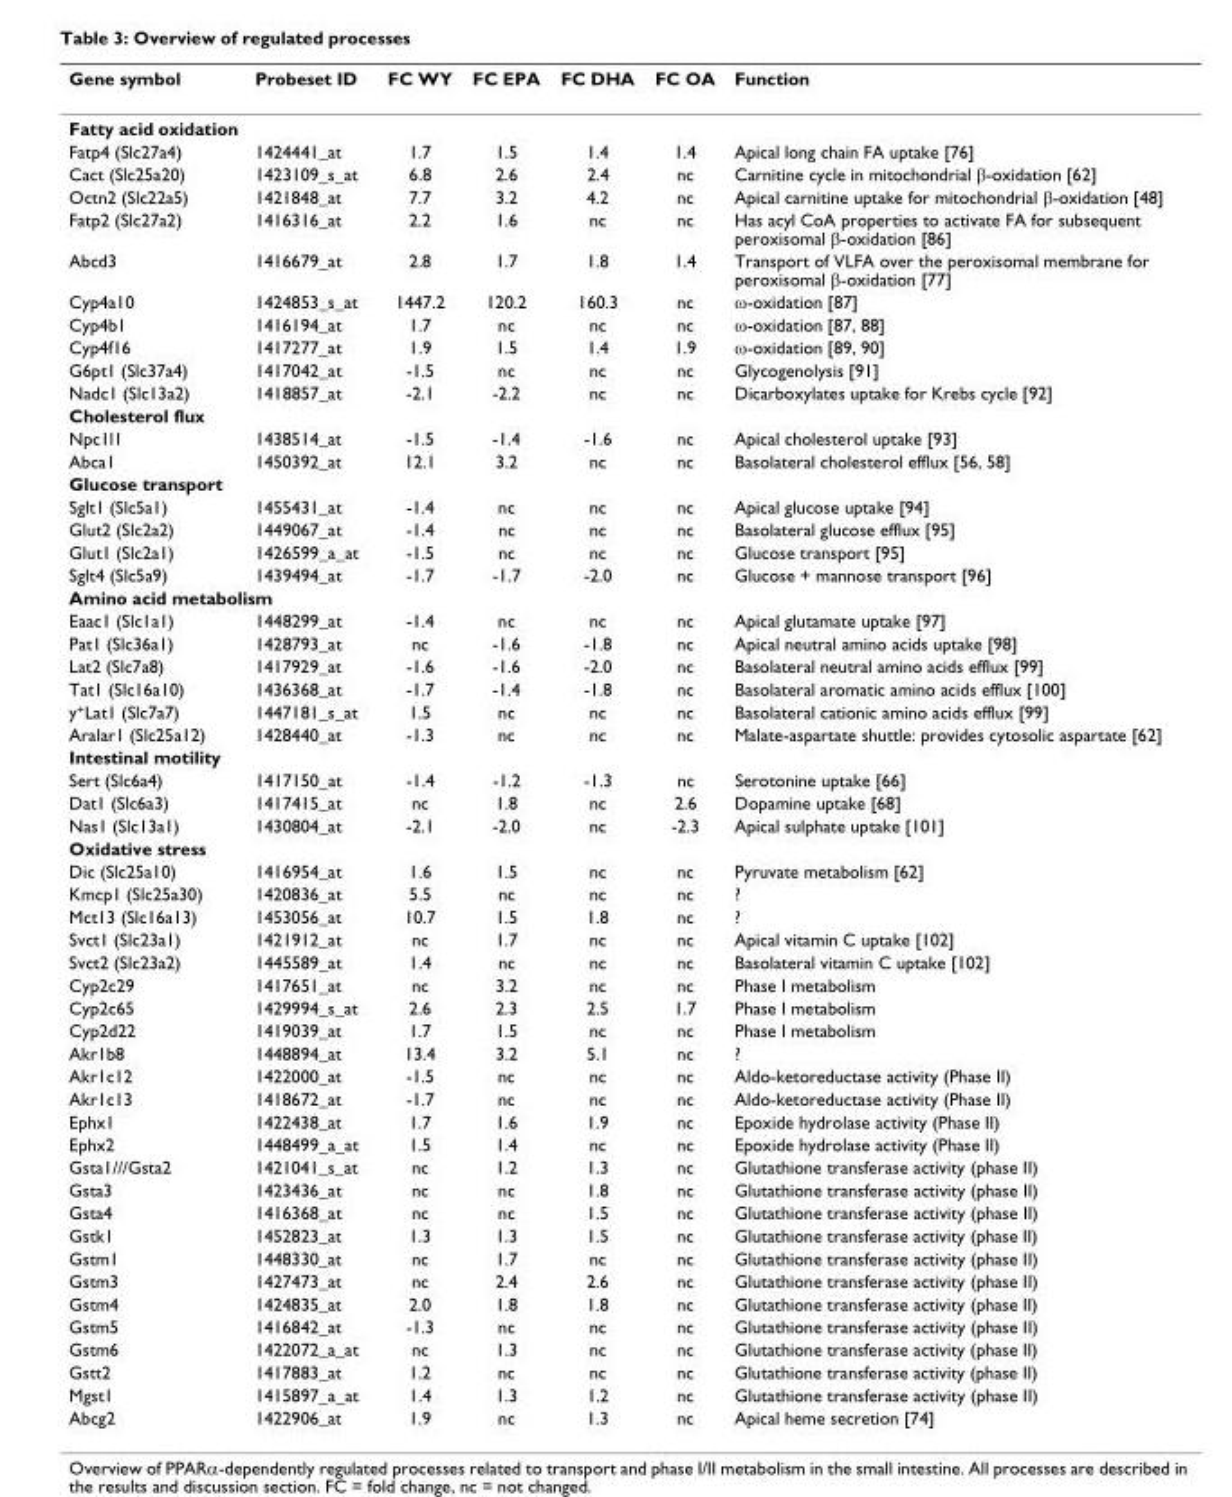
<table><thead><tr><td>Gene symbol</td><td>Probeset ID</td><td>FC WY</td><td>FC EPA</td><td>FC DHA</td><td>FC OA</td><td>Function</td></tr></thead><tbody><tr><td colspan="7">Fatty acid oxidation</td></tr><tr><td>Fatp4 (Slc27a4)</td><td>1424441_at</td><td>1.7</td><td>1.5</td><td>1.4</td><td>1.4</td><td>Apical long chain FA uptake [76]</td></tr><tr><td>Cact (Slc25a20)</td><td>1423109_s_at</td><td>6.8</td><td>2.6</td><td>2.4</td><td>nc</td><td>Carnitine cycle in mitochondrial β-oxidation [62]</td></tr><tr><td>Octn2 (Slc22a5)</td><td>1421848_at</td><td>7.7</td><td>3.2</td><td>4.2</td><td>nc</td><td>Apical carnitine uptake for mitochondrial β-oxidation [48]</td></tr><tr><td>Fatp2 (Slc27a2)</td><td>1416316_at</td><td>2.2</td><td>1.6</td><td>nc</td><td>nc</td><td>Has acyl CoA properties to activate FA for subsequent peroxisomal β-oxidation [86]</td></tr><tr><td>Abcd3</td><td>1416679_at</td><td>2.8</td><td>1.7</td><td>1.8</td><td>1.4</td><td>Transport of VLFA over the peroxisomal membrane for peroxisomal β-oxidation [77]</td></tr><tr><td>Cyp4a10</td><td>1424853_s_at</td><td>1447.2</td><td>120.2</td><td>160.3</td><td>nc</td><td>ω-oxidation [87]</td></tr><tr><td>Cyp4b1</td><td>1416194_at</td><td>1.7</td><td>nc</td><td>nc</td><td>nc</td><td>ω-oxidation [87, 88]</td></tr><tr><td>Cyp4f16</td><td>1417277_at</td><td>1.9</td><td>1.5</td><td>1.4</td><td>1.9</td><td>ω-oxidation [89, 90]</td></tr><tr><td>G6pt1 (Slc37a4)</td><td>1417042_at</td><td>-1.5</td><td>nc</td><td>nc</td><td>nc</td><td>Glycogenolysis [91]</td></tr><tr><td>Nadc1 (Slc13a2)</td><td>1418857_at</td><td>-2.1</td><td>-2.2</td><td>nc</td><td>nc</td><td>Dicarboxylates uptake for Krebs cycle [92]</td></tr><tr><td colspan="7">Cholesterol flux</td></tr><tr><td>Npc1l1</td><td>1438514_at</td><td>-1.5</td><td>-1.4</td><td>-1.6</td><td>nc</td><td>Apical cholesterol uptake [93]</td></tr><tr><td>Abca1</td><td>1450392_at</td><td>12.1</td><td>3.2</td><td>nc</td><td>nc</td><td>Basolateral cholesterol efflux [56, 58]</td></tr><tr><td colspan="7">Glucose transport</td></tr><tr><td>Sglt1 (Slc5a1)</td><td>1455431_at</td><td>-1.4</td><td>nc</td><td>nc</td><td>nc</td><td>Apical glucose uptake [94]</td></tr><tr><td>Glut2 (Slc2a2)</td><td>1449067_at</td><td>-1.4</td><td>nc</td><td>nc</td><td>nc</td><td>Basolateral glucose efflux [95]</td></tr><tr><td>Glut1 (Slc2a1)</td><td>1426599_a_at</td><td>-1.5</td><td>nc</td><td>nc</td><td>nc</td><td>Glucose transport [95]</td></tr><tr><td>Sglt4 (Slc5a9)</td><td>1439494_at</td><td>-1.7</td><td>-1.7</td><td>-2.0</td><td>nc</td><td>Glucose + mannose transport [96]</td></tr><tr><td colspan="7">Amino acid metabolism</td></tr><tr><td>Eaac1 (Slc1a1)</td><td>1448299_at</td><td>-1.4</td><td>nc</td><td>nc</td><td>nc</td><td>Apical glutamate uptake [97]</td></tr><tr><td>Pat1 (Slc36a1)</td><td>1428793_at</td><td>nc</td><td>-1.6</td><td>-1.8</td><td>nc</td><td>Apical neutral amino acids uptake [98]</td></tr><tr><td>Lat2 (Slc7a8)</td><td>1417929_at</td><td>-1.6</td><td>-1.6</td><td>-2.0</td><td>nc</td><td>Basolateral neutral amino acids efflux [99]</td></tr><tr><td>Tat1 (Slc16a10)</td><td>1436368_at</td><td>-1.7</td><td>-1.4</td><td>-1.8</td><td>nc</td><td>Basolateral aromatic amino acids efflux [100]</td></tr><tr><td>y<sup>+</sup>Lat1 (Slc7a7)</td><td>1447181_s_at</td><td>1.5</td><td>nc</td><td>nc</td><td>nc</td><td>Basolateral cationic amino acids efflux [99]</td></tr><tr><td>Aralar1 (Slc25a12)</td><td>1428440_at</td><td>-1.3</td><td>nc</td><td>nc</td><td>nc</td><td>Malate-aspartate shuttle: provides cytosolic aspartate [62]</td></tr><tr><td colspan="7">Intestinal motility</td></tr><tr><td>Sert (Slc6a4)</td><td>1417150_at</td><td>-1.4</td><td>-1.2</td><td>-1.3</td><td>nc</td><td>Serotonine uptake [66]</td></tr><tr><td>Dat1 (Slc6a3)</td><td>1417415_at</td><td>nc</td><td>1.8</td><td>nc</td><td>2.6</td><td>Dopamine uptake [68]</td></tr><tr><td>Nas1 (Slc13a1)</td><td>1430804_at</td><td>-2.1</td><td>-2.0</td><td>nc</td><td>-2.3</td><td>Apical sulphate uptake [101]</td></tr><tr><td colspan="7">Oxidative stress</td></tr><tr><td>Dic (Slc25a10)</td><td>1416954_at</td><td>1.6</td><td>1.5</td><td>nc</td><td>nc</td><td>Pyruvate metabolism [62]</td></tr><tr><td>Kmcp1 (Slc25a30)</td><td>1420836_at</td><td>5.5</td><td>nc</td><td>nc</td><td>nc</td><td>?</td></tr><tr><td>Mct13 (Slc16a13)</td><td>1453056_at</td><td>10.7</td><td>1.5</td><td>1.8</td><td>nc</td><td>?</td></tr><tr><td>Svct1 (Slc23a1)</td><td>1421912_at</td><td>nc</td><td>1.7</td><td>nc</td><td>nc</td><td>Apical vitamin C uptake [102]</td></tr><tr><td>Svct2 (Slc23a2)</td><td>1445589_at</td><td>1.4</td><td>nc</td><td>nc</td><td>nc</td><td>Basolateral vitamin C uptake [102]</td></tr><tr><td>Cyp2c29</td><td>1417651_at</td><td>nc</td><td>3.2</td><td>nc</td><td>nc</td><td>Phase I metabolism</td></tr><tr><td>Cyp2c65</td><td>1429994_s_at</td><td>2.6</td><td>2.3</td><td>2.5</td><td>1.7</td><td>Phase I metabolism</td></tr><tr><td>Cyp2d22</td><td>1419039_at</td><td>1.7</td><td>1.5</td><td>nc</td><td>nc</td><td>Phase I metabolism</td></tr><tr><td>Akr1b8</td><td>1448894_at</td><td>13.4</td><td>3.2</td><td>5.1</td><td>nc</td><td>?</td></tr><tr><td>Akr1c12</td><td>1422000_at</td><td>-1.5</td><td>nc</td><td>nc</td><td>nc</td><td>Aldo-ketoreductase activity (Phase II)</td></tr><tr><td>Akr1c13</td><td>1418672_at</td><td>-1.7</td><td>nc</td><td>nc</td><td>nc</td><td>Aldo-ketoreductase activity (Phase II)</td></tr><tr><td>Ephx1</td><td>1422438_at</td><td>1.7</td><td>1.6</td><td>1.9</td><td>nc</td><td>Epoxide hydrolase activity (Phase II)</td></tr><tr><td>Ephx2</td><td>1448499_a_at</td><td>1.5</td><td>1.4</td><td>nc</td><td>nc</td><td>Epoxide hydrolase activity (Phase II)</td></tr><tr><td>Gsta1///Gsta2</td><td>1421041_s_at</td><td>nc</td><td>1.2</td><td>1.3</td><td>nc</td><td>Glutathione transferase activity (phase II)</td></tr><tr><td>Gsta3</td><td>1423436_at</td><td>nc</td><td>nc</td><td>1.8</td><td>nc</td><td>Glutathione transferase activity (phase II)</td></tr><tr><td>Gsta4</td><td>1416368_at</td><td>nc</td><td>nc</td><td>1.5</td><td>nc</td><td>Glutathione transferase activity (phase II)</td></tr><tr><td>Gstk1</td><td>1452823_at</td><td>1.3</td><td>1.3</td><td>1.5</td><td>nc</td><td>Glutathione transferase activity (phase II)</td></tr><tr><td>Gstm1</td><td>1448330_at</td><td>nc</td><td>1.7</td><td>nc</td><td>nc</td><td>Glutathione transferase activity (phase II)</td></tr><tr><td>Gstm3</td><td>1427473_at</td><td>nc</td><td>2.4</td><td>2.6</td><td>nc</td><td>Glutathione transferase activity (phase II)</td></tr><tr><td>Gstm4</td><td>1424835_at</td><td>2.0</td><td>1.8</td><td>1.8</td><td>nc</td><td>Glutathione transferase activity (phase II)</td></tr><tr><td>Gstm5</td><td>1416842_at</td><td>-1.3</td><td>nc</td><td>nc</td><td>nc</td><td>Glutathione transferase activity (phase II)</td></tr><tr><td>Gstm6</td><td>1422072_a_at</td><td>nc</td><td>1.3</td><td>nc</td><td>nc</td><td>Glutathione transferase activity (phase II)</td></tr><tr><td>Gstt2</td><td>1417883_at</td><td>1.2</td><td>nc</td><td>nc</td><td>nc</td><td>Glutathione transferase activity (phase II)</td></tr><tr><td>Mgst1</td><td>1415897_a_at</td><td>1.4</td><td>1.3</td><td>1.2</td><td>nc</td><td>Glutathione transferase activity (phase II)</td></tr><tr><td>Abcg2</td><td>1422906_at</td><td>1.9</td><td>nc</td><td>1.3</td><td>nc</td><td>Apical heme secretion [74]</td></tr></tbody></table>